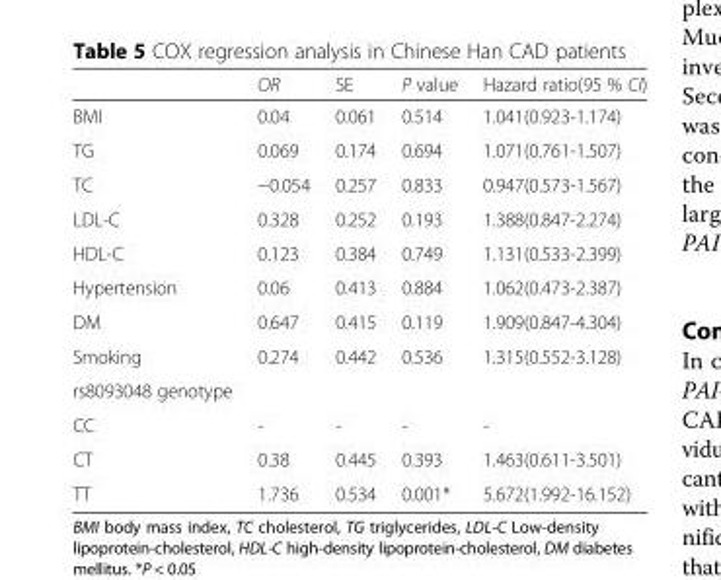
<table><thead><tr><td></td><td>OR</td><td>SE</td><td>P value</td><td>Hazard ratio(95 % CI)</td></tr></thead><tbody><tr><td>BMI</td><td>0.04</td><td>0.061</td><td>0.514</td><td>1.041(0.923-1.174)</td></tr><tr><td>TG</td><td>0.069</td><td>0.174</td><td>0.694</td><td>1.071(0.761-1.507)</td></tr><tr><td>TC</td><td>−0.054</td><td>0.257</td><td>0.833</td><td>0.947(0.573-1.567)</td></tr><tr><td>LDL-C</td><td>0.328</td><td>0.252</td><td>0.193</td><td>1.388(0.847-2.274)</td></tr><tr><td>HDL-C</td><td>0.123</td><td>0.384</td><td>0.749</td><td>1.131(0.533-2.399)</td></tr><tr><td>Hypertension</td><td>0.06</td><td>0.413</td><td>0.884</td><td>1.062(0.473-2.387)</td></tr><tr><td>DM</td><td>0.647</td><td>0.415</td><td>0.119</td><td>1.909(0.847-4.304)</td></tr><tr><td>Smoking</td><td>0.274</td><td>0.442</td><td>0.536</td><td>1.315(0.552-3.128)</td></tr><tr><td colspan="5">rs8093048 genotype</td></tr><tr><td>CC</td><td>-</td><td>-</td><td>-</td><td>-</td></tr><tr><td>CT</td><td>0.38</td><td>0.445</td><td>0.393</td><td>1.463(0.611-3.501)</td></tr><tr><td>TT</td><td>1.736</td><td>0.534</td><td>0.001*</td><td>5.672(1.992-16.152)</td></tr></tbody></table>